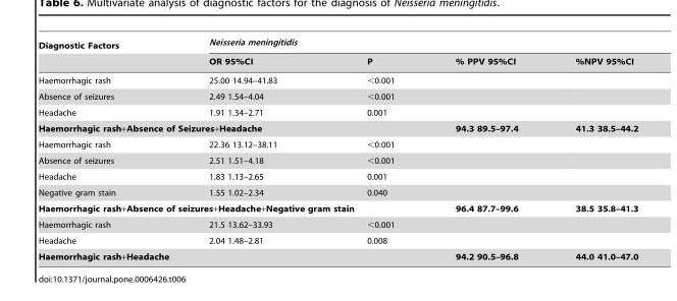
<table><thead><tr><td rowspan="2">Diagnostic Factors</td><td colspan="4">Neisseria meningitidis</td></tr><tr><td>OR 95%CI</td><td>P</td><td>% PPV 95%CI</td><td>%NPV 95%CI</td></tr></thead><tbody><tr><td>Haemorrhagic rash</td><td>25.00 14.94–41.83</td><td>&lt;0.001</td><td></td><td></td></tr><tr><td>Absence of seizures</td><td>2.49 1.54–4.04</td><td>&lt;0.001</td><td></td><td></td></tr><tr><td>Headache</td><td>1.91 1.34–2.71</td><td>0.001</td><td></td><td></td></tr><tr><td colspan="3">Haemorrhagic rash+Absence of Seizures+Headache</td><td>94.3 89.5–97.4</td><td>41.3 38.5–44.2</td></tr><tr><td>Haemorrhagic rash</td><td>22.36 13.12–38.11</td><td>&lt;0.001</td><td></td><td></td></tr><tr><td>Absence of seizures</td><td>2.51 1.51–4.18</td><td>&lt;0.001</td><td></td><td></td></tr><tr><td>Headache</td><td>1.83 1.13–2.65</td><td>0.001</td><td></td><td></td></tr><tr><td>Negative gram stain</td><td>1.55 1.02–2.34</td><td>0.040</td><td></td><td></td></tr><tr><td colspan="3">Haemorrhagic rash+Absence of seizures+Headache+Negative gram stain</td><td>96.4 87.7–99.6</td><td>38.5 35.8–41.3</td></tr><tr><td>Haemorrhagic rash</td><td>21.5 13.62–33.93</td><td>&lt;0.001</td><td></td><td></td></tr><tr><td>Headache</td><td>2.04 1.48–2.81</td><td>0.008</td><td></td><td></td></tr><tr><td colspan="3">Haemorrhagic rash+Headache</td><td>94.2 90.5–96.8</td><td>44.0 41.0–47.0</td></tr></tbody></table>